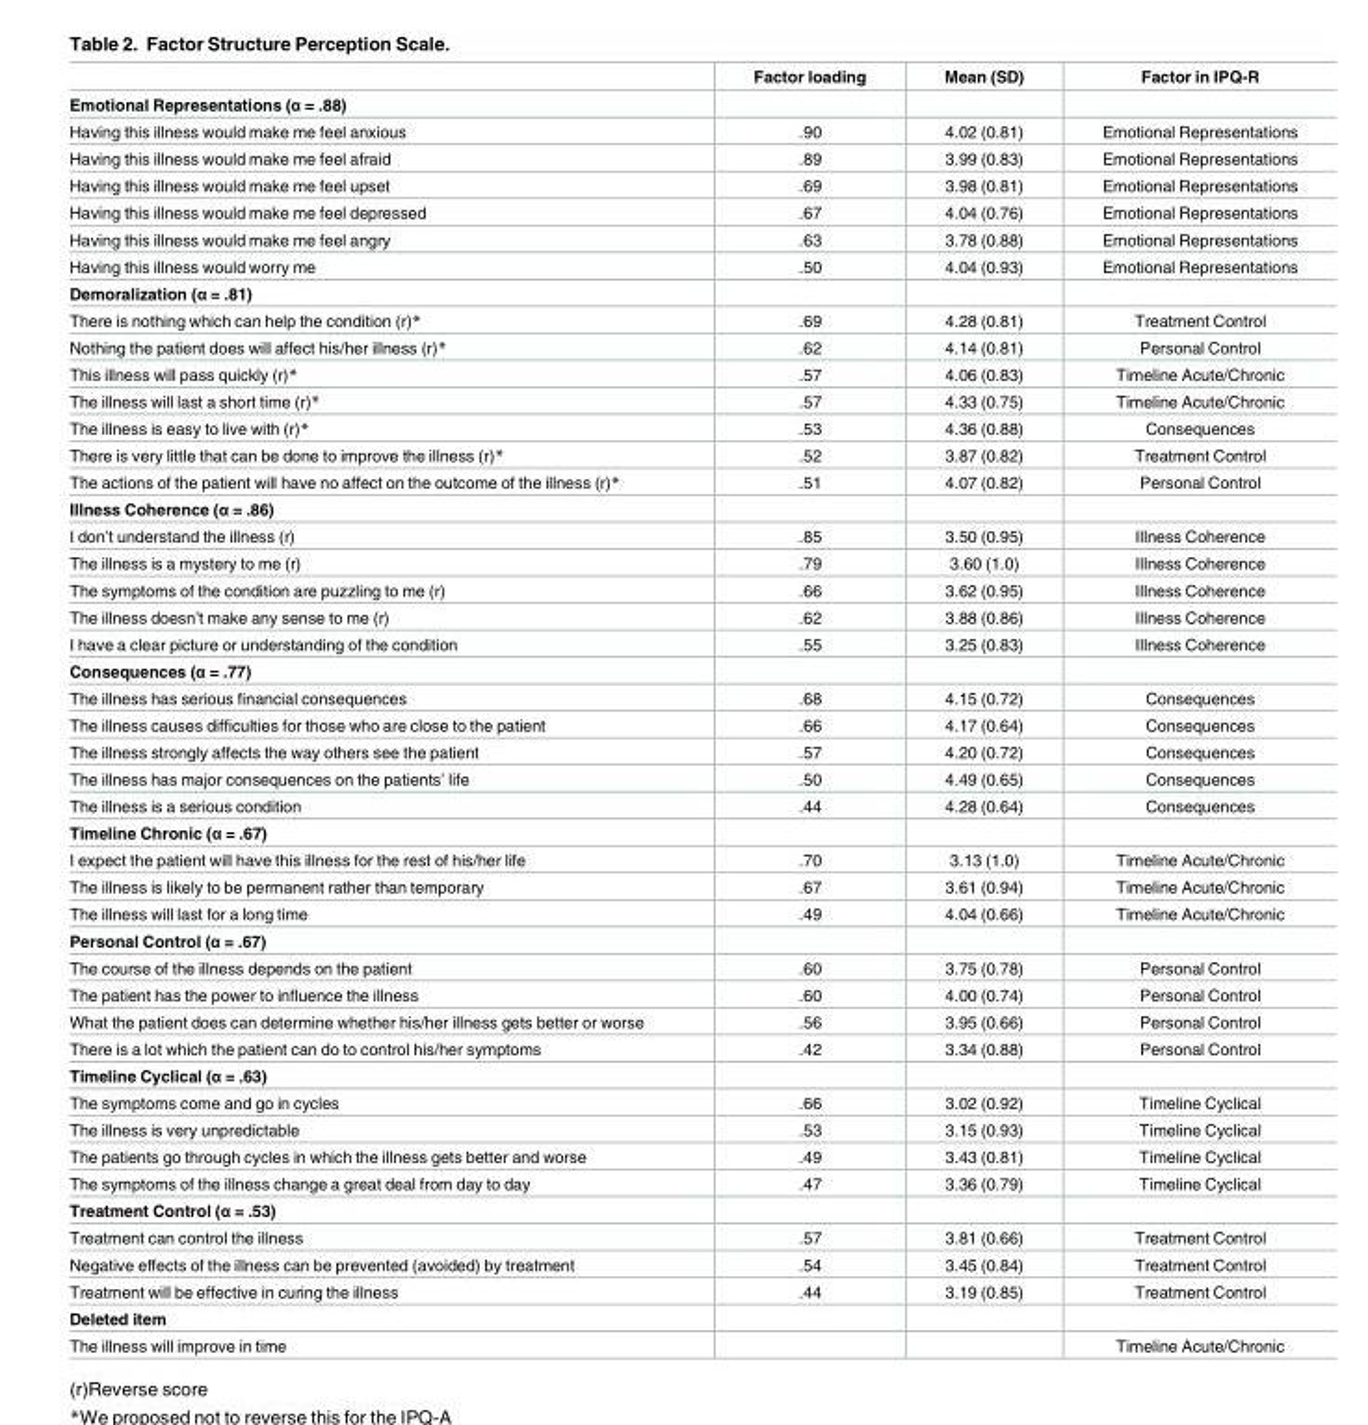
<table><thead><tr><td></td><td>Factor loading</td><td>Mean (SD)</td><td>Factor in IPQ-R</td></tr></thead><tbody><tr><td colspan="4">Emotional Representations (α = .88)</td></tr><tr><td>Having this illness would make me feel anxious</td><td>.90</td><td>4.02 (0.81)</td><td>Emotional Representations</td></tr><tr><td>Having this illness would make me feel afraid</td><td>.89</td><td>3.99 (0.83)</td><td>Emotional Representations</td></tr><tr><td>Having this illness would make me feel upset</td><td>.69</td><td>3.98 (0.81)</td><td>Emotional Representations</td></tr><tr><td>Having this illness would make me feel depressed</td><td>.67</td><td>4.04 (0.76)</td><td>Emotional Representations</td></tr><tr><td>Having this illness would make me feel angry</td><td>.63</td><td>3.78 (0.88)</td><td>Emotional Representations</td></tr><tr><td>Having this illness would worry me</td><td>.50</td><td>4.04 (0.93)</td><td>Emotional Representations</td></tr><tr><td colspan="4">Demoralization (α = .81)</td></tr><tr><td>There is nothing which can help the condition (r)*</td><td>.69</td><td>4.28 (0.81)</td><td>Treatment Control</td></tr><tr><td>Nothing the patient does will affect his/her illness (r)*</td><td>.62</td><td>4.14 (0.81)</td><td>Personal Control</td></tr><tr><td>This illness will pass quickly (r)*</td><td>.57</td><td>4.06 (0.83)</td><td>Timeline Acute/Chronic</td></tr><tr><td>The illness will last a short time (r)*</td><td>.57</td><td>4.33 (0.75)</td><td>Timeline Acute/Chronic</td></tr><tr><td>The illness is easy to live with (r)*</td><td>.53</td><td>4.36 (0.88)</td><td>Consequences</td></tr><tr><td>There is very little that can be done to improve the illness (r)*</td><td>.52</td><td>3.87 (0.82)</td><td>Treatment Control</td></tr><tr><td>The actions of the patient will have no affect on the outcome of the illness (r)*</td><td>.51</td><td>4.07 (0.82)</td><td>Personal Control</td></tr><tr><td colspan="4">Illness Coherence (α = .86)</td></tr><tr><td>I don’t understand the illness (r)</td><td>.85</td><td>3.50 (0.95)</td><td>Illness Coherence</td></tr><tr><td>The illness is a mystery to me (r)</td><td>.79</td><td>3.60 (1.0)</td><td>Illness Coherence</td></tr><tr><td>The symptoms of the condition are puzzling to me (r)</td><td>.66</td><td>3.62 (0.95)</td><td>Illness Coherence</td></tr><tr><td>The illness doesn’t make any sense to me (r)</td><td>.62</td><td>3.88 (0.86)</td><td>Illness Coherence</td></tr><tr><td>I have a clear picture or understanding of the condition</td><td>.55</td><td>3.25 (0.83)</td><td>Illness Coherence</td></tr><tr><td colspan="4">Consequences (α = .77)</td></tr><tr><td>The illness has serious financial consequences</td><td>.68</td><td>4.15 (0.72)</td><td>Consequences</td></tr><tr><td>The illness causes difficulties for those who are close to the patient</td><td>.66</td><td>4.17 (0.64)</td><td>Consequences</td></tr><tr><td>The illness strongly affects the way others see the patient</td><td>.57</td><td>4.20 (0.72)</td><td>Consequences</td></tr><tr><td>The illness has major consequences on the patients’ life</td><td>.50</td><td>4.49 (0.65)</td><td>Consequences</td></tr><tr><td>The illness is a serious condition</td><td>.44</td><td>4.28 (0.64)</td><td>Consequences</td></tr><tr><td colspan="4">Timeline Chronic (α = .67)</td></tr><tr><td>I expect the patient will have this illness for the rest of his/her life</td><td>.70</td><td>3.13 (1.0)</td><td>Timeline Acute/Chronic</td></tr><tr><td>The illness is likely to be permanent rather than temporary</td><td>.67</td><td>3.61 (0.94)</td><td>Timeline Acute/Chronic</td></tr><tr><td>The illness will last for a long time</td><td>.49</td><td>4.04 (0.66)</td><td>Timeline Acute/Chronic</td></tr><tr><td colspan="4">Personal Control (α = .67)</td></tr><tr><td>The course of the illness depends on the patient</td><td>.60</td><td>3.75 (0.78)</td><td>Personal Control</td></tr><tr><td>The patient has the power to influence the illness</td><td>.60</td><td>4.00 (0.74)</td><td>Personal Control</td></tr><tr><td>What the patient does can determine whether his/her illness gets better or worse</td><td>.56</td><td>3.95 (0.66)</td><td>Personal Control</td></tr><tr><td>There is a lot which the patient can do to control his/her symptoms</td><td>.42</td><td>3.34 (0.88)</td><td>Personal Control</td></tr><tr><td colspan="4">Timeline Cyclical (α = .63)</td></tr><tr><td>The symptoms come and go in cycles</td><td>.66</td><td>3.02 (0.92)</td><td>Timeline Cyclical</td></tr><tr><td>The illness is very unpredictable</td><td>.53</td><td>3.15 (0.93)</td><td>Timeline Cyclical</td></tr><tr><td>The patients go through cycles in which the illness gets better and worse</td><td>.49</td><td>3.43 (0.81)</td><td>Timeline Cyclical</td></tr><tr><td>The symptoms of the illness change a great deal from day to day</td><td>.47</td><td>3.36 (0.79)</td><td>Timeline Cyclical</td></tr><tr><td colspan="4">Treatment Control (α = .53)</td></tr><tr><td>Treatment can control the illness</td><td>.57</td><td>3.81 (0.66)</td><td>Treatment Control</td></tr><tr><td>Negative effects of the illness can be prevented (avoided) by treatment</td><td>.54</td><td>3.45 (0.84)</td><td>Treatment Control</td></tr><tr><td>Treatment will be effective in curing the illness</td><td>.44</td><td>3.19 (0.85)</td><td>Treatment Control</td></tr><tr><td colspan="4">Deleted item</td></tr><tr><td>The illness will improve in time</td><td></td><td></td><td>Timeline Acute/Chronic</td></tr></tbody></table>